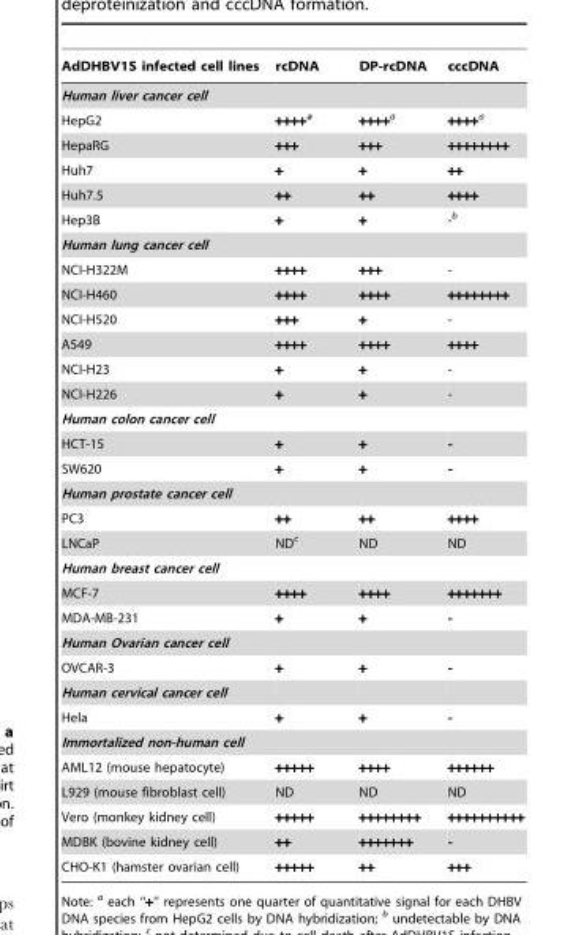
<table><thead><tr><td>AdDHBV1S infected cell lines</td><td>rcDNA</td><td>DP-rcDNA</td><td>cccDNA</td></tr></thead><tbody><tr><td colspan="4">Human liver cancer cell</td></tr><tr><td>HepG2</td><td>++++<sup>a</sup></td><td>++++<sup>a</sup></td><td>++++<sup>a</sup></td></tr><tr><td>HepaRG</td><td>+++</td><td>+++</td><td>++++++++</td></tr><tr><td>Huh7</td><td>+</td><td>+</td><td>++</td></tr><tr><td>Huh7.5</td><td>++</td><td>++</td><td>++++</td></tr><tr><td>Hep3B</td><td>+</td><td>+</td><td>-<sup>b</sup></td></tr><tr><td colspan="4">Human lung cancer cell</td></tr><tr><td>NCI-H322M</td><td>++++</td><td>+++</td><td>-</td></tr><tr><td>NCI-H460</td><td>++++</td><td>++++</td><td>++++++++</td></tr><tr><td>NCI-H520</td><td>+++</td><td>+</td><td>-</td></tr><tr><td>A549</td><td>++++</td><td>++++</td><td>++++</td></tr><tr><td>NCI-H23</td><td>+</td><td>+</td><td>-</td></tr><tr><td>NCI-H226</td><td>+</td><td>+</td><td>-</td></tr><tr><td colspan="4">Human colon cancer cell</td></tr><tr><td>HCT-15</td><td>+</td><td>+</td><td>-</td></tr><tr><td>SW620</td><td>+</td><td>+</td><td>-</td></tr><tr><td colspan="4">Human prostate cancer cell</td></tr><tr><td>PC3</td><td>++</td><td>++</td><td>++++</td></tr><tr><td>LNCaP</td><td>ND<sup>c</sup></td><td>ND</td><td>ND</td></tr><tr><td colspan="4">Human breast cancer cell</td></tr><tr><td>MCF-7</td><td>++++</td><td>++++</td><td>+++++++</td></tr><tr><td>MDA-MB-231</td><td>+</td><td>+</td><td>-</td></tr><tr><td colspan="4">Human Ovarian cancer cell</td></tr><tr><td>OVCAR-3</td><td>+</td><td>+</td><td>-</td></tr><tr><td colspan="4">Human cervical cancer cell</td></tr><tr><td>Hela</td><td>+</td><td>+</td><td>-</td></tr><tr><td colspan="4">Immortalized non-human cell</td></tr><tr><td>AML12 (mouse hepatocyte)</td><td>+++++</td><td>++++</td><td>++++++</td></tr><tr><td>L929 (mouse fibroblast cell)</td><td>ND</td><td>ND</td><td>ND</td></tr><tr><td>Vero (monkey kidney cell)</td><td>+++++</td><td>++++++++</td><td>++++++++++</td></tr><tr><td>MDBK (bovine kidney cell)</td><td>++</td><td>+++++++</td><td>-</td></tr><tr><td>CHO-K1 (hamster ovarian cell)</td><td>+++++</td><td>++</td><td>+++</td></tr></tbody></table>